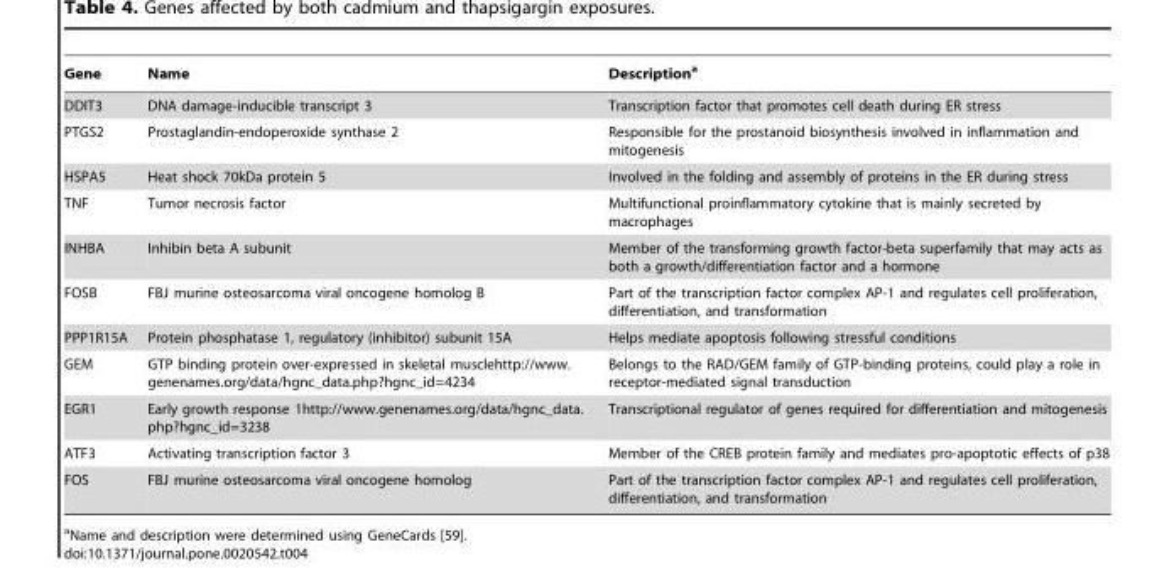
<table><thead><tr><td>Gene</td><td>Name</td><td>Description<sup>a</sup></td></tr></thead><tbody><tr><td>DDIT3</td><td>DNA damage-inducible transcript 3</td><td>Transcription factor that promotes cell death during ER stress</td></tr><tr><td>PTGS2</td><td>Prostaglandin-endoperoxide synthase 2</td><td>Responsible for the prostanoid biosynthesis involved in inflammation and mitogenesis</td></tr><tr><td>HSPA5</td><td>Heat shock 70kDa protein 5</td><td>Involved in the folding and assembly of proteins in the ER during stress</td></tr><tr><td>TNF</td><td>Tumor necrosis factor</td><td>Multifunctional proinflammatory cytokine that is mainly secreted by macrophages</td></tr><tr><td>INHBA</td><td>Inhibin beta A subunit</td><td>Member of the transforming growth factor-beta superfamily that may acts as both a growth/differentiation factor and a hormone</td></tr><tr><td>FOSB</td><td>FBJ murine osteosarcoma viral oncogene homolog B</td><td>Part of the transcription factor complex AP-1 and regulates cell proliferation, differentiation, and transformation</td></tr><tr><td>PPP1R15A</td><td>Protein phosphatase 1, regulatory (inhibitor) subunit 15A</td><td>Helps mediate apoptosis following stressful conditions</td></tr><tr><td>GEM</td><td>GTP binding protein over-expressed in skeletal musclehttp://www. genenames.org/data/hgnc_data.php?hgnc_id=4234</td><td>Belongs to the RAD/GEM family of GTP-binding proteins, could play a role in receptor-mediated signal transduction</td></tr><tr><td>EGR1</td><td>Early growth response 1http://www.genenames.org/data/hgnc_data. php?hgnc_id=3238</td><td>Transcriptional regulator of genes required for differentiation and mitogenesis</td></tr><tr><td>ATF3</td><td>Activating transcription factor 3</td><td>Member of the CREB protein family and mediates pro-apoptotic effects of p38</td></tr><tr><td>FOS</td><td>FBJ murine osteosarcoma viral oncogene homolog</td><td>Part of the transcription factor complex AP-1 and regulates cell proliferation, differentiation, and transformation</td></tr></tbody></table>